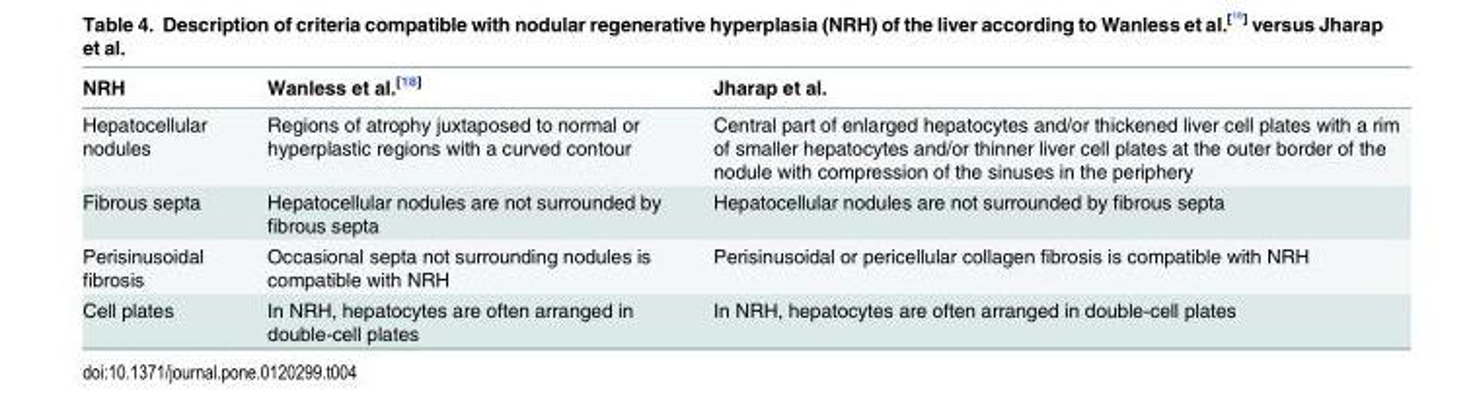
<table><thead><tr><td>NRH</td><td>Wanless et al.<sup>[18]</sup></td><td>Jharap et al.</td></tr></thead><tbody><tr><td>Hepatocellular nodules</td><td>Regions of atrophy juxtaposed to normal or hyperplastic regions with a curved contour</td><td>Central part of enlarged hepatocytes and/or thickened liver cell plates with a rim of smaller hepatocytes and/or thinner liver cell plates at the outer border of the nodule with compression of the sinuses in the periphery</td></tr><tr><td>Fibrous septa</td><td>Hepatocellular nodules are not surrounded by fibrous septa</td><td>Hepatocellular nodules are not surrounded by fibrous septa</td></tr><tr><td>Perisinusoidal fibrosis</td><td>Occasional septa not surrounding nodules is compatible with NRH</td><td>Perisinusoidal or pericellular collagen fibrosis is compatible with NRH</td></tr><tr><td>Cell plates</td><td>In NRH, hepatocytes are often arranged in double-cell plates</td><td>In NRH, hepatocytes are often arranged in double-cell plates</td></tr></tbody></table>